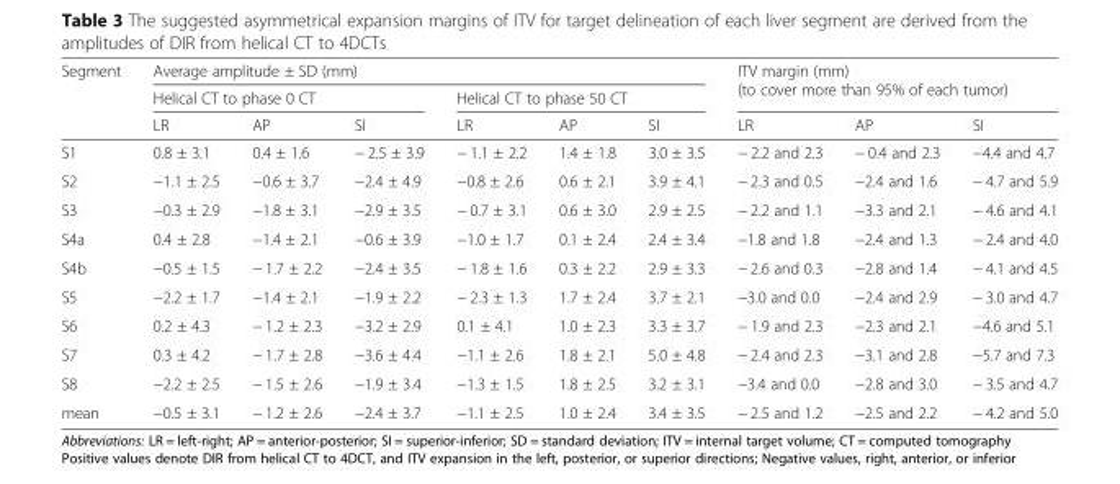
<table><thead><tr><td rowspan="3">Segment</td><td colspan="6">Average amplitude ± SD (mm)</td><td rowspan="2" colspan="3">ITV margin (mm) (to cover more than 95% of each tumor)</td></tr><tr><td colspan="3">Helical CT to phase 0 CT</td><td colspan="3">Helical CT to phase 50 CT</td></tr><tr><td>LR</td><td>AP</td><td>SI</td><td>LR</td><td>AP</td><td>SI</td><td>LR</td><td>AP</td><td>SI</td></tr></thead><tbody><tr><td>S1</td><td>0.8 ± 3.1</td><td>0.4 ± 1.6</td><td>− 2.5 ± 3.9</td><td>− 1.1 ± 2.2</td><td>1.4 ± 1.8</td><td>3.0 ± 3.5</td><td>− 2.2 and 2.3</td><td>− 0.4 and 2.3</td><td>−4.4 and 4.7</td></tr><tr><td>S2</td><td>−1.1 ± 2.5</td><td>−0.6 ± 3.7</td><td>−2.4 ± 4.9</td><td>−0.8 ± 2.6</td><td>0.6 ± 2.1</td><td>3.9 ± 4.1</td><td>− 2.3 and 0.5</td><td>−2.4 and 1.6</td><td>− 4.7 and 5.9</td></tr><tr><td>S3</td><td>−0.3 ± 2.9</td><td>−1.8 ± 3.1</td><td>−2.9 ± 3.5</td><td>− 0.7 ± 3.1</td><td>0.6 ± 3.0</td><td>2.9 ± 2.5</td><td>− 2.2 and 1.1</td><td>−3.3 and 2.1</td><td>− 4.6 and 4.1</td></tr><tr><td>S4a</td><td>0.4 ± 2.8</td><td>−1.4 ± 2.1</td><td>−0.6 ± 3.9</td><td>−1.0 ± 1.7</td><td>0.1 ± 2.4</td><td>2.4 ± 3.4</td><td>−1.8 and 1.8</td><td>−2.4 and 1.3</td><td>− 2.4 and 4.0</td></tr><tr><td>S4b</td><td>−0.5 ± 1.5</td><td>− 1.7 ± 2.2</td><td>−2.4 ± 3.5</td><td>− 1.8 ± 1.6</td><td>0.3 ± 2.2</td><td>2.9 ± 3.3</td><td>− 2.6 and 0.3</td><td>−2.8 and 1.4</td><td>− 4.1 and 4.5</td></tr><tr><td>S5</td><td>−2.2 ± 1.7</td><td>−1.4 ± 2.1</td><td>−1.9 ± 2.2</td><td>− 2.3 ± 1.3</td><td>1.7 ± 2.4</td><td>3.7 ± 2.1</td><td>−3.0 and 0.0</td><td>−2.4 and 2.9</td><td>− 3.0 and 4.7</td></tr><tr><td>S6</td><td>0.2 ± 4.3</td><td>− 1.2 ± 2.3</td><td>−3.2 ± 2.9</td><td>0.1 ± 4.1</td><td>1.0 ± 2.3</td><td>3.3 ± 3.7</td><td>− 1.9 and 2.3</td><td>−2.3 and 2.1</td><td>−4.6 and 5.1</td></tr><tr><td>S7</td><td>0.3 ± 4.2</td><td>− 1.7 ± 2.8</td><td>−3.6 ± 4.4</td><td>−1.1 ± 2.6</td><td>1.8 ± 2.1</td><td>5.0 ± 4.8</td><td>− 2.4 and 2.3</td><td>−3.1 and 2.8</td><td>−5.7 and 7.3</td></tr><tr><td>S8</td><td>−2.2 ± 2.5</td><td>− 1.5 ± 2.6</td><td>−1.9 ± 3.4</td><td>−1.3 ± 1.5</td><td>1.8 ± 2.5</td><td>3.2 ± 3.1</td><td>−3.4 and 0.0</td><td>−2.8 and 3.0</td><td>− 3.5 and 4.7</td></tr><tr><td>mean</td><td>−0.5 ± 3.1</td><td>− 1.2 ± 2.6</td><td>−2.4 ± 3.7</td><td>−1.1 ± 2.5</td><td>1.0 ± 2.4</td><td>3.4 ± 3.5</td><td>− 2.5 and 1.2</td><td>−2.5 and 2.2</td><td>− 4.2 and 5.0</td></tr></tbody></table>